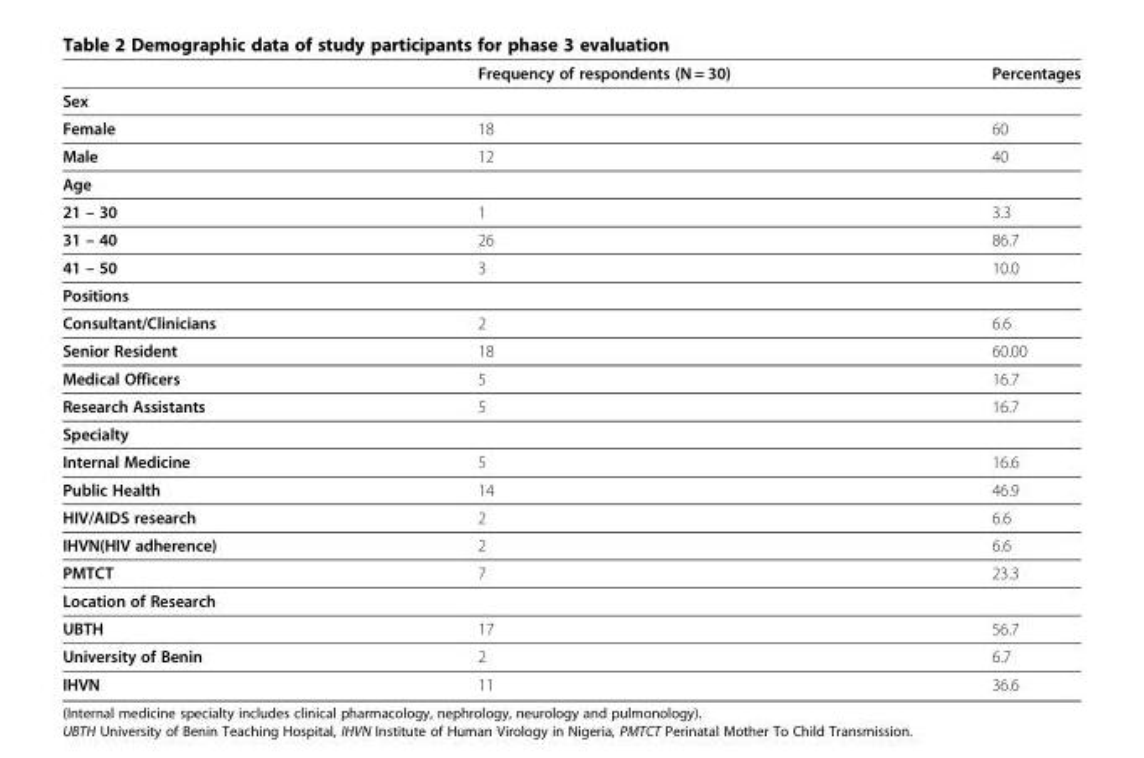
<table><thead><tr><td></td><td>Frequency of respondents (N = 30)</td><td>Percentages</td></tr></thead><tbody><tr><td colspan="3">Sex</td></tr><tr><td>Female</td><td>18</td><td>60</td></tr><tr><td>Male</td><td>12</td><td>40</td></tr><tr><td colspan="3">Age</td></tr><tr><td>21 – 30</td><td>1</td><td>3.3</td></tr><tr><td>31 – 40</td><td>26</td><td>86.7</td></tr><tr><td>41 – 50</td><td>3</td><td>10.0</td></tr><tr><td colspan="3">Positions</td></tr><tr><td>Consultant/Clinicians</td><td>2</td><td>6.6</td></tr><tr><td>Senior Resident</td><td>18</td><td>60.00</td></tr><tr><td>Medical Officers</td><td>5</td><td>16.7</td></tr><tr><td>Research Assistants</td><td>5</td><td>16.7</td></tr><tr><td colspan="3">Specialty</td></tr><tr><td>Internal Medicine</td><td>5</td><td>16.6</td></tr><tr><td>Public Health</td><td>14</td><td>46.9</td></tr><tr><td>HIV/AIDS research</td><td>2</td><td>6.6</td></tr><tr><td>IHVN(HIV adherence)</td><td>2</td><td>6.6</td></tr><tr><td>PMTCT</td><td>7</td><td>23.3</td></tr><tr><td colspan="3">Location of Research</td></tr><tr><td>UBTH</td><td>17</td><td>56.7</td></tr><tr><td>University of Benin</td><td>2</td><td>6.7</td></tr><tr><td>IHVN</td><td>11</td><td>36.6</td></tr></tbody></table>